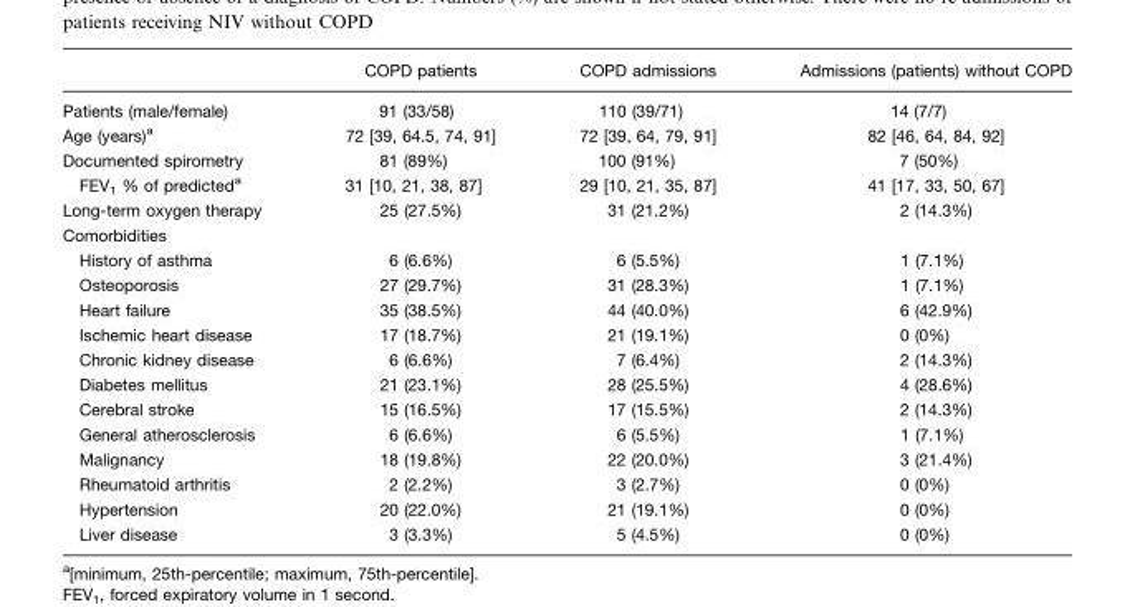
<table><thead><tr><td></td><td>COPD patients</td><td>COPD admissions</td><td>Admissions (patients) without COPD</td></tr></thead><tbody><tr><td>Patients (male/female)</td><td>91 (33/58)</td><td>110 (39/71)</td><td>14 (7/7)</td></tr><tr><td>Age (years)<sup>a</sup></td><td>72 [39, 64.5, 74, 91]</td><td>72 [39, 64, 79, 91]</td><td>82 [46, 64, 84, 92]</td></tr><tr><td>Documented spirometry</td><td>81 (89%)</td><td>100 (91%)</td><td>7 (50%)</td></tr><tr><td>FEV<sub>1</sub> % of predicted<sup>a</sup></td><td>31 [10, 21, 38, 87]</td><td>29 [10, 21, 35, 87]</td><td>41 [17, 33, 50, 67]</td></tr><tr><td>Long-term oxygen therapy</td><td>25 (27.5%)</td><td>31 (21.2%)</td><td>2 (14.3%)</td></tr><tr><td colspan="4">Comorbidities</td></tr><tr><td>History of asthma</td><td>6 (6.6%)</td><td>6 (5.5%)</td><td>1 (7.1%)</td></tr><tr><td>Osteoporosis</td><td>27 (29.7%)</td><td>31 (28.3%)</td><td>1 (7.1%)</td></tr><tr><td>Heart failure</td><td>35 (38.5%)</td><td>44 (40.0%)</td><td>6 (42.9%)</td></tr><tr><td>Ischemic heart disease</td><td>17 (18.7%)</td><td>21 (19.1%)</td><td>0 (0%)</td></tr><tr><td>Chronic kidney disease</td><td>6 (6.6%)</td><td>7 (6.4%)</td><td>2 (14.3%)</td></tr><tr><td>Diabetes mellitus</td><td>21 (23.1%)</td><td>28 (25.5%)</td><td>4 (28.6%)</td></tr><tr><td>Cerebral stroke</td><td>15 (16.5%)</td><td>17 (15.5%)</td><td>2 (14.3%)</td></tr><tr><td>General atherosclerosis</td><td>6 (6.6%)</td><td>6 (5.5%)</td><td>1 (7.1%)</td></tr><tr><td>Malignancy</td><td>18 (19.8%)</td><td>22 (20.0%)</td><td>3 (21.4%)</td></tr><tr><td>Rheumatoid arthritis</td><td>2 (2.2%)</td><td>3 (2.7%)</td><td>0 (0%)</td></tr><tr><td>Hypertension</td><td>20 (22.0%)</td><td>21 (19.1%)</td><td>0 (0%)</td></tr><tr><td>Liver disease</td><td>3 (3.3%)</td><td>5 (4.5%)</td><td>0 (0%)</td></tr></tbody></table>